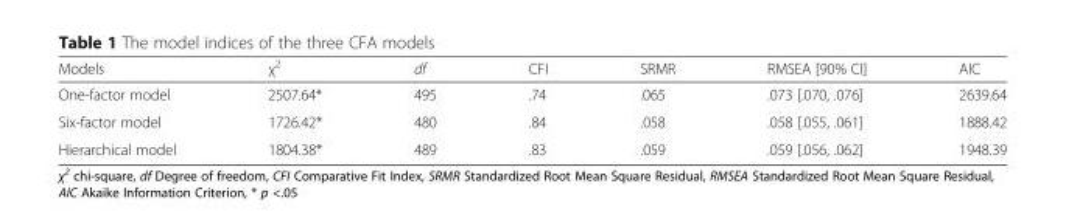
<table><thead><tr><td>Models</td><td>χ<sup>2</sup></td><td>df</td><td>CFI</td><td>SRMR</td><td>RMSEA [90% CI]</td><td>AIC</td></tr></thead><tbody><tr><td>One-factor model</td><td>2507.64*</td><td>495</td><td>.74</td><td>.065</td><td>.073 [.070, .076]</td><td>2639.64</td></tr><tr><td>Six-factor model</td><td>1726.42*</td><td>480</td><td>.84</td><td>.058</td><td>.058 [.055, .061]</td><td>1888.42</td></tr><tr><td>Hierarchical model</td><td>1804.38*</td><td>489</td><td>.83</td><td>.059</td><td>.059 [.056, .062]</td><td>1948.39</td></tr></tbody></table>